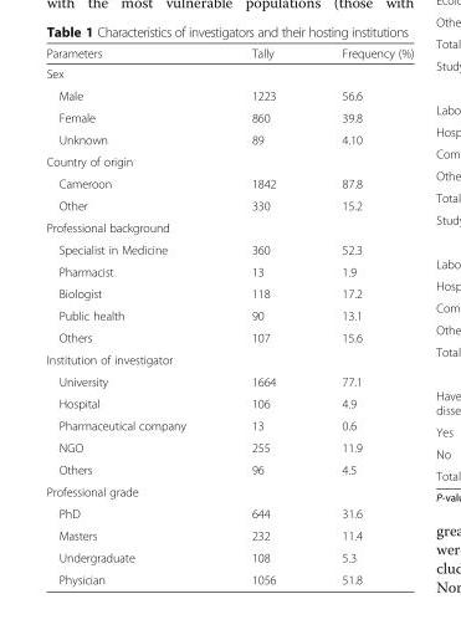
<table><thead><tr><td>Parameters</td><td>Tally</td><td>Frequency (%)</td></tr></thead><tbody><tr><td colspan="3">Sex</td></tr><tr><td>Male</td><td>1223</td><td>56.6</td></tr><tr><td>Female</td><td>860</td><td>39.8</td></tr><tr><td>Unknown</td><td>89</td><td>4.10</td></tr><tr><td colspan="3">Country of origin</td></tr><tr><td>Cameroon</td><td>1842</td><td>87.8</td></tr><tr><td>Other</td><td>330</td><td>15.2</td></tr><tr><td colspan="3">Professional background</td></tr><tr><td>Specialist in Medicine</td><td>360</td><td>52.3</td></tr><tr><td>Pharmacist</td><td>13</td><td>1.9</td></tr><tr><td>Biologist</td><td>118</td><td>17.2</td></tr><tr><td>Public health</td><td>90</td><td>13.1</td></tr><tr><td>Others</td><td>107</td><td>15.6</td></tr><tr><td colspan="3">Institution of investigator</td></tr><tr><td>University</td><td>1664</td><td>77.1</td></tr><tr><td>Hospital</td><td>106</td><td>4.9</td></tr><tr><td>Pharmaceutical company</td><td>13</td><td>0.6</td></tr><tr><td>NGO</td><td>255</td><td>11.9</td></tr><tr><td>Others</td><td>96</td><td>4.5</td></tr><tr><td colspan="3">Professional grade</td></tr><tr><td>PhD</td><td>644</td><td>31.6</td></tr><tr><td>Masters</td><td>232</td><td>11.4</td></tr><tr><td>Undergraduate</td><td>108</td><td>5.3</td></tr><tr><td>Physician</td><td>1056</td><td>51.8</td></tr></tbody></table>